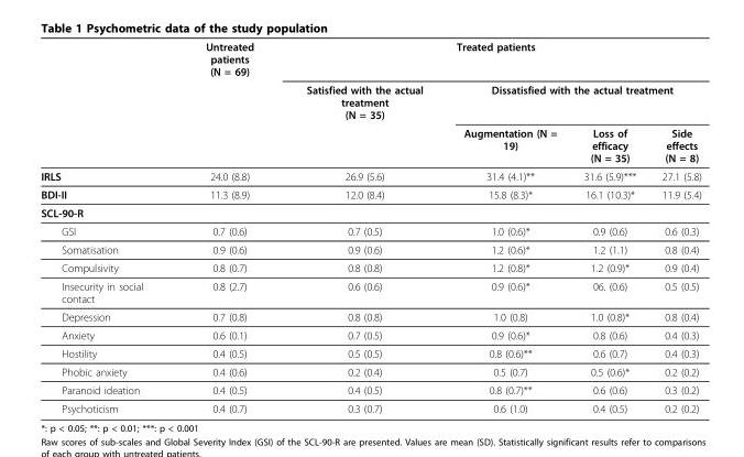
<table><thead><tr><td rowspan="3"></td><td rowspan="3">Untreated patients (N = 69)</td><td colspan="4">Treated patients</td></tr><tr><td rowspan="2">Satisfied with the actual treatment (N = 35)</td><td colspan="3">Dissatisfied with the actual treatment</td></tr><tr><td>Augmentation (N = 19)</td><td>Loss of efficacy (N = 35)</td><td>Side effects (N = 8)</td></tr></thead><tbody><tr><td>IRLS</td><td>24.0 (8.8)</td><td>26.9 (5.6)</td><td>31.4 (4.1)**</td><td>31.6 (5.9)***</td><td>27.1 (5.8)</td></tr><tr><td>BDI-II</td><td>11.3 (8.9)</td><td>12.0 (8.4)</td><td>15.8 (8.3)*</td><td>16.1 (10.3)*</td><td>11.9 (5.4)</td></tr><tr><td colspan="6">SCL-90-R</td></tr><tr><td>GSI</td><td>0.7 (0.6)</td><td>0.7 (0.5)</td><td>1.0 (0.6)*</td><td>0.9 (0.6)</td><td>0.6 (0.3)</td></tr><tr><td>Somatisation</td><td>0.9 (0.6)</td><td>0.9 (0.6)</td><td>1.2 (0.6)*</td><td>1.2 (1.1)</td><td>0.8 (0.4)</td></tr><tr><td>Compulsivity</td><td>0.8 (0.7)</td><td>0.8 (0.8)</td><td>1.2 (0.8)*</td><td>1.2 (0.9)*</td><td>0.9 (0.4)</td></tr><tr><td>Insecurity in social contact</td><td>0.8 (2.7)</td><td>0.6 (0.6)</td><td>0.9 (0.6)*</td><td>06. (0.6)</td><td>0.5 (0.5)</td></tr><tr><td>Depression</td><td>0.7 (0.8)</td><td>0.8 (0.8)</td><td>1.0 (0.8)</td><td>1.0 (0.8)*</td><td>0.8 (0.4)</td></tr><tr><td>Anxiety</td><td>0.6 (0.1)</td><td>0.7 (0.5)</td><td>0.9 (0.6)*</td><td>0.8 (0.6)</td><td>0.4 (0.3)</td></tr><tr><td>Hostility</td><td>0.4 (0.5)</td><td>0.5 (0.5)</td><td>0.8 (0.6)**</td><td>0.6 (0.7)</td><td>0.4 (0.3)</td></tr><tr><td>Phobic anxiety</td><td>0.4 (0.6)</td><td>0.2 (0.4)</td><td>0.5 (0.7)</td><td>0.5 (0.6)*</td><td>0.2 (0.2)</td></tr><tr><td>Paranoid ideation</td><td>0.4 (0.5)</td><td>0.4 (0.5)</td><td>0.8 (0.7)**</td><td>0.6 (0.6)</td><td>0.3 (0.2)</td></tr><tr><td>Psychoticism</td><td>0.4 (0.7)</td><td>0.3 (0.7)</td><td>0.6 (1.0)</td><td>0.4 (0.5)</td><td>0.2 (0.2)</td></tr></tbody></table>